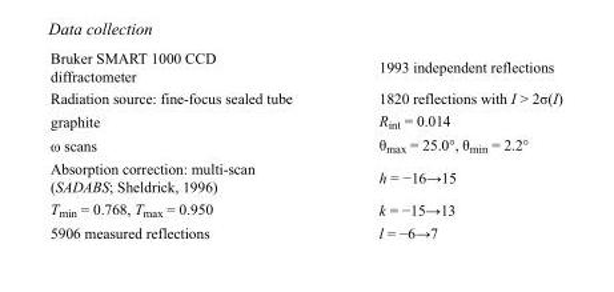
<table><tbody><tr><td>Bruker SMART 1000 CCD diffractometer</td><td>1993 independent reflections</td></tr><tr><td>Radiation source: fine-focus sealed tube</td><td>1820 reflections with I &gt; 2σ(I)</td></tr><tr><td>graphite</td><td>R<sub>int</sub> = 0.014</td></tr><tr><td>ω scans</td><td>θ<sub>max</sub> = 25.0°, θ<sub>min</sub> = 2.2°</td></tr><tr><td>Absorption correction: multi-scan (SADABS; Sheldrick, 1996)</td><td>h = −16→15</td></tr><tr><td>T<sub>min</sub> = 0.768, T<sub>max</sub> = 0.950</td><td>k = −15→13</td></tr><tr><td>5906 measured reflections</td><td>l = −6→7</td></tr></tbody></table>